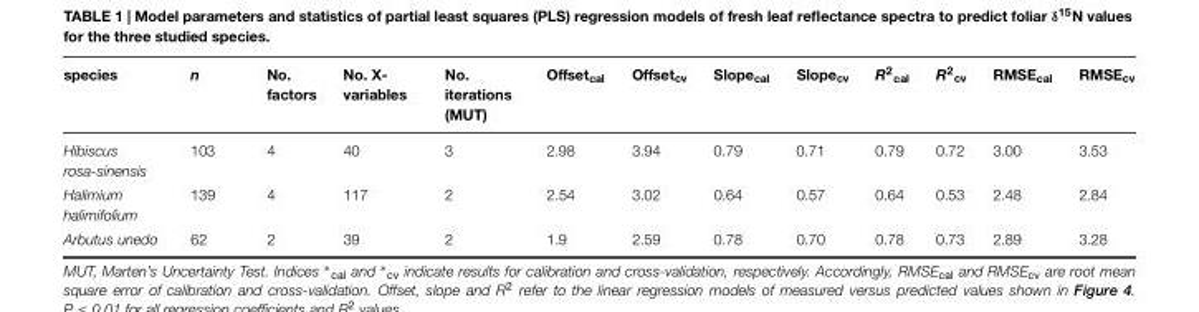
<table><thead><tr><td>species</td><td>n</td><td>No. factors</td><td>No. X- variables</td><td>No. iterations (MUT)</td><td>Offset<sub>cal</sub></td><td>Offset<sub>cv</sub></td><td>Slope<sub>cal</sub></td><td>Slope<sub>cv</sub></td><td>R<sup>2</sup><sub>cal</sub></td><td>R<sup>2</sup><sub>cv</sub></td><td>RMSE<sub>cal</sub></td><td>RMSE<sub>cv</sub></td></tr></thead><tbody><tr><td>Hibiscus rosa-sinensis</td><td>103</td><td>4</td><td>40</td><td>3</td><td>2.98</td><td>3.94</td><td>0.79</td><td>0.71</td><td>0.79</td><td>0.72</td><td>3.00</td><td>3.53</td></tr><tr><td>Halimium halimifolium</td><td>139</td><td>4</td><td>117</td><td>2</td><td>2.54</td><td>3.02</td><td>0.64</td><td>0.57</td><td>0.64</td><td>0.53</td><td>2.48</td><td>2.84</td></tr><tr><td>Arbutus unedo</td><td>62</td><td>2</td><td>39</td><td>2</td><td>1.9</td><td>2.59</td><td>0.78</td><td>0.70</td><td>0.78</td><td>0.73</td><td>2.89</td><td>3.28</td></tr></tbody></table>